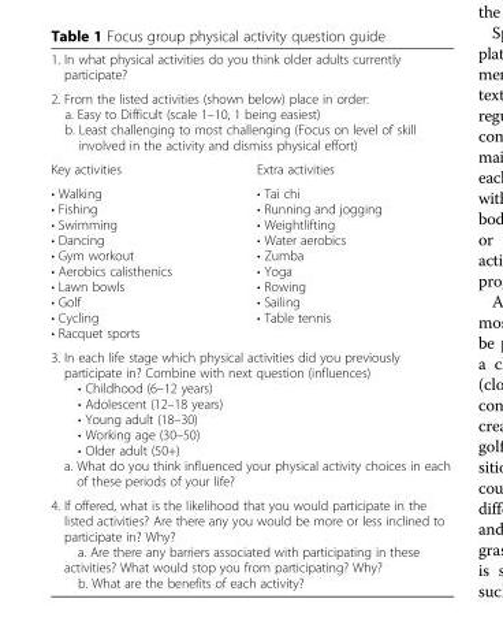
<table><tbody><tr><td colspan="2">1. In what physical activities do you think older adults currently participate?</td></tr><tr><td colspan="2">2. From the listed activities (shown below) place in order: a. Easy to Difficult (scale 1–10, 1 being easiest) b. Least challenging to most challenging (Focus on level of skill involved in the activity and dismiss physical effort)</td></tr><tr><td>Key activities</td><td>Extra activities</td></tr><tr><td>• Walking • Fishing • Swimming • Dancing • Gym workout • Aerobics calisthenics • Lawn bowls • Golf • Cycling • Racquet sports</td><td>• Tai chi • Running and jogging • Weightlifting • Water aerobics • Zumba • Yoga • Rowing • Sailing • Table tennis</td></tr><tr><td colspan="2">3. In each life stage which physical activities did you previously participate in? Combine with next question (influences) • Childhood (6–12 years) • Adolescent (12–18 years) • Young adult (18–30) • Working age (30–50) • Older adult (50+) a. What do you think influenced your physical activity choices in each of these periods of your life?</td></tr><tr><td colspan="2">4. If offered, what is the likelihood that you would participate in the listed activities? Are there any you would be more or less inclined to participate in? Why? a. Are there any barriers associated with participating in these activities? What would stop you from participating? Why? b. What are the benefits of each activity?</td></tr></tbody></table>